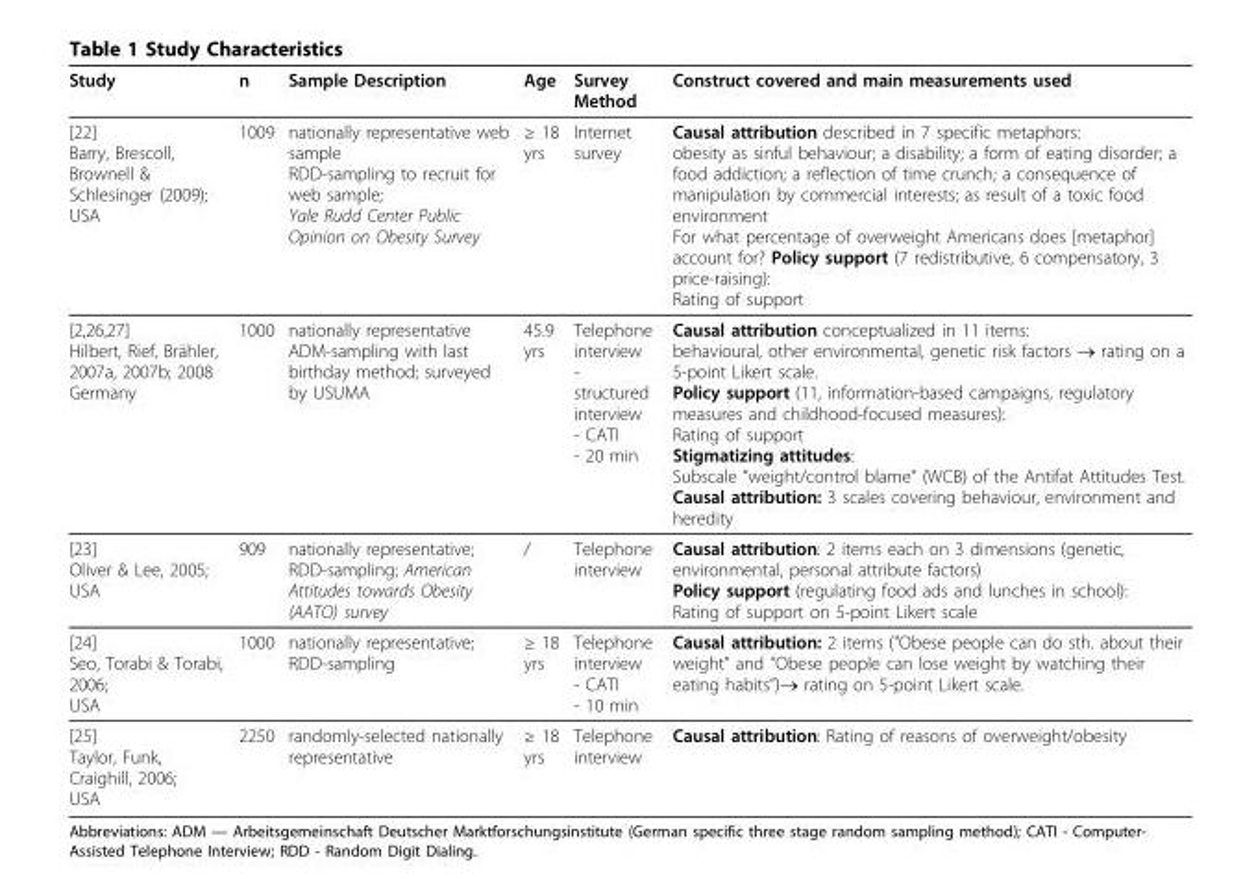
<table><thead><tr><td>Study</td><td>n</td><td>Sample Description</td><td>Age</td><td>Survey Method</td><td>Construct covered and main measurements used</td></tr></thead><tbody><tr><td>[22] Barry, Brescoll, Brownell &amp; Schlesinger (2009); USA</td><td>1009</td><td>nationally representative web sample RDD-sampling to recruit for web sample; Yale Rudd Center Public Opinion on Obesity Survey</td><td>≥ 18 yrs</td><td>Internet survey</td><td>Causal attribution described in 7 specific metaphors: obesity as sinful behaviour; a disability; a form of eating disorder; a food addiction; a reflection of time crunch; a consequence of manipulation by commercial interests; as result of a toxic food environment For what percentage of overweight Americans does [metaphor] account for? Policy support (7 redistributive, 6 compensatory, 3 price-raising): Rating of support</td></tr><tr><td>[2,26,27] Hilbert, Rief, Brähler, 2007a, 2007b; 2008 Germany</td><td>1000</td><td>nationally representative ADM-sampling with last birthday method; surveyed by USUMA</td><td>45.9 yrs</td><td>Telephone interview - structured interview - CATI - 20 min</td><td>Causal attribution conceptualized in 11 items: behavioural, other environmental, genetic risk factors → rating on a 5-point Likert scale. Policy support (11, information-based campaigns, regulatory measures and childhood-focused measures): Rating of support Stigmatizing attitudes: Subscale “weight/control blame” (WCB) of the Antifat Attitudes Test. Causal attribution: 3 scales covering behaviour, environment and heredity</td></tr><tr><td>[23] Oliver &amp; Lee, 2005; USA</td><td>909</td><td>nationally representative; RDD-sampling; American Attitudes towards Obesity (AATO) survey</td><td>/</td><td>Telephone interview</td><td>Causal attribution: 2 items each on 3 dimensions (genetic, environmental, personal attribute factors) Policy support (regulating food ads and lunches in school): Rating of support on 5-point Likert scale</td></tr><tr><td>[24] Seo, Torabi &amp; Torabi, 2006; USA</td><td>1000</td><td>nationally representative; RDD-sampling</td><td>≥ 18 yrs</td><td>Telephone interview - CATI - 10 min</td><td>Causal attribution: 2 items (&quot;Obese people can do sth. about their weight” and “Obese people can lose weight by watching their eating habits”)→ rating on 5-point Likert scale.</td></tr><tr><td>[25] Taylor, Funk, Craighill, 2006; USA</td><td>2250</td><td>randomly-selected nationally representative</td><td>≥ 18 yrs</td><td>Telephone interview</td><td>Causal attribution: Rating of reasons of overweight/obesity</td></tr></tbody></table>